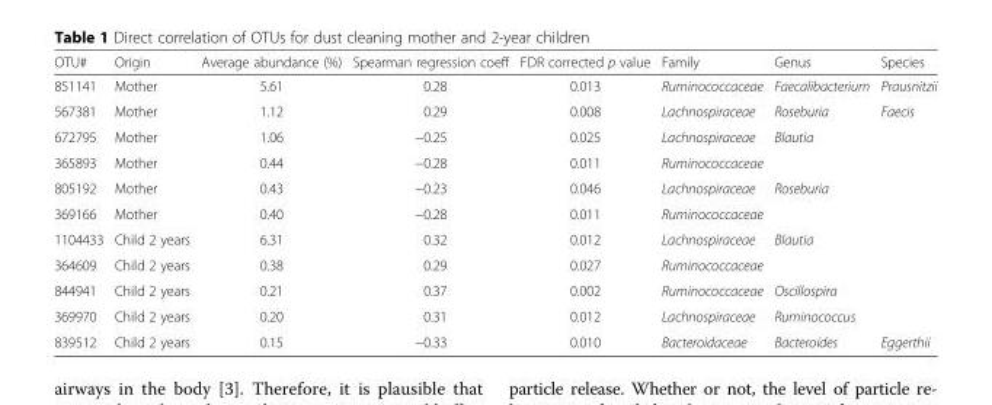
<table><thead><tr><td>OTU#</td><td>Origin</td><td>Average abundance (%)</td><td>Spearman regression coeff</td><td>FDR corrected p value</td><td>Family</td><td>Genus</td><td>Species</td></tr></thead><tbody><tr><td>851141</td><td>Mother</td><td>5.61</td><td>0.28</td><td>0.013</td><td>Ruminococcaceae</td><td>Faecalibacterium</td><td>Prausnitzii</td></tr><tr><td>567381</td><td>Mother</td><td>1.12</td><td>0.29</td><td>0.008</td><td>Lachnospiraceae</td><td>Roseburia</td><td>Faecis</td></tr><tr><td>672795</td><td>Mother</td><td>1.06</td><td>−0.25</td><td>0.025</td><td>Lachnospiraceae</td><td>Blautia</td><td></td></tr><tr><td>365893</td><td>Mother</td><td>0.44</td><td>−0.28</td><td>0.011</td><td>Ruminococcaceae</td><td></td><td></td></tr><tr><td>805192</td><td>Mother</td><td>0.43</td><td>−0.23</td><td>0.046</td><td>Lachnospiraceae</td><td>Roseburia</td><td></td></tr><tr><td>369166</td><td>Mother</td><td>0.40</td><td>−0.28</td><td>0.011</td><td>Ruminococcaceae</td><td></td><td></td></tr><tr><td>1104433</td><td>Child 2 years</td><td>6.31</td><td>0.32</td><td>0.012</td><td>Lachnospiraceae</td><td>Blautia</td><td></td></tr><tr><td>364609</td><td>Child 2 years</td><td>0.38</td><td>0.29</td><td>0.027</td><td>Ruminococcaceae</td><td></td><td></td></tr><tr><td>844941</td><td>Child 2 years</td><td>0.21</td><td>0.37</td><td>0.002</td><td>Ruminococcaceae</td><td>Oscillospira</td><td></td></tr><tr><td>369970</td><td>Child 2 years</td><td>0.20</td><td>0.31</td><td>0.012</td><td>Lachnospiraceae</td><td>Ruminococcus</td><td></td></tr><tr><td>839512</td><td>Child 2 years</td><td>0.15</td><td>−0.33</td><td>0.010</td><td>Bacteroidaceae</td><td>Bacteroides</td><td>Eggerthii</td></tr></tbody></table>